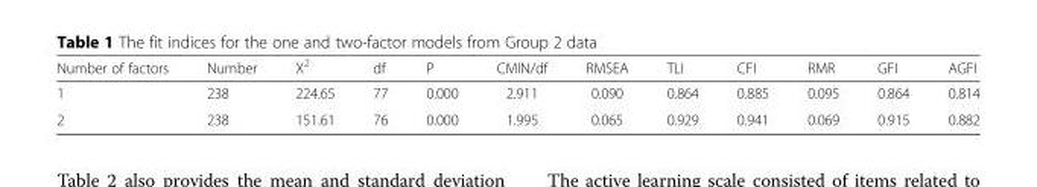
<table><thead><tr><td>Number of factors</td><td>Number</td><td>X<sup>2</sup></td><td>df</td><td>P</td><td>CMIN/df</td><td>RMSEA</td><td>TLI</td><td>CFI</td><td>RMR</td><td>GFI</td><td>AGFI</td></tr></thead><tbody><tr><td>1</td><td>238</td><td>224.65</td><td>77</td><td>0.000</td><td>2.911</td><td>0.090</td><td>0.864</td><td>0.885</td><td>0.095</td><td>0.864</td><td>0.814</td></tr><tr><td>2</td><td>238</td><td>151.61</td><td>76</td><td>0.000</td><td>1.995</td><td>0.065</td><td>0.929</td><td>0.941</td><td>0.069</td><td>0.915</td><td>0.882</td></tr></tbody></table>